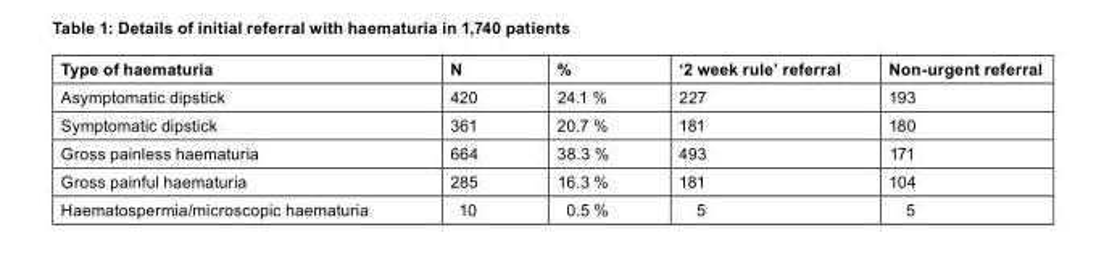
<table><thead><tr><td>Type of haematuria</td><td>N</td><td>%</td><td>‘2 week rule’ referral</td><td>Non-urgent referral</td></tr></thead><tbody><tr><td>Asymptomatic dipstick</td><td>420</td><td>24.1 %</td><td>227</td><td>193</td></tr><tr><td>Symptomatic dipstick</td><td>361</td><td>20.7 %</td><td>181</td><td>180</td></tr><tr><td>Gross painless haematuria</td><td>664</td><td>38.3 %</td><td>493</td><td>171</td></tr><tr><td>Gross painful haematuria</td><td>285</td><td>16.3 %</td><td>181</td><td>104</td></tr><tr><td>Haematospermia/microscopic haematuria</td><td>10</td><td>0.5 %</td><td>5</td><td>5</td></tr></tbody></table>